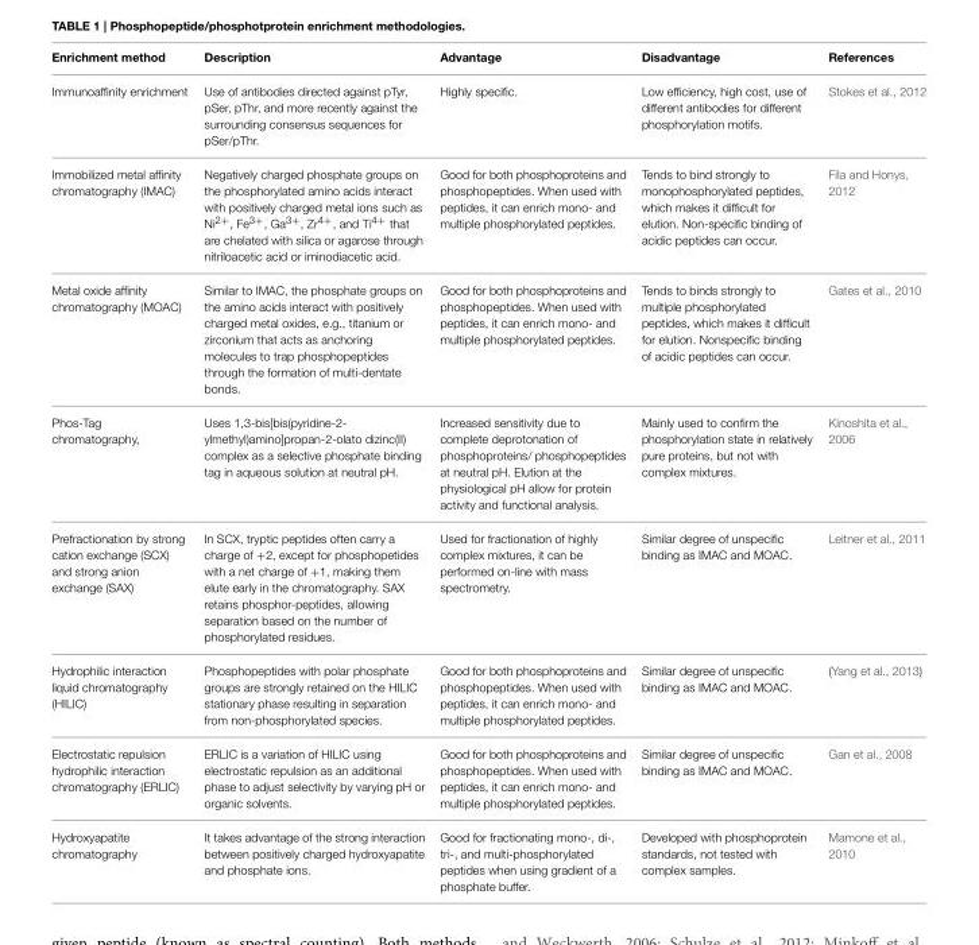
<table><thead><tr><td>Enrichment method</td><td>Description</td><td>Advantage</td><td>Disadvantage</td><td>References</td></tr></thead><tbody><tr><td>Immunoaffinity enrichment</td><td>Use of antibodies directed against pTyr, pSer, pThr, and more recently against the surrounding consensus sequences for pSer/pThr.</td><td>Highly specific.</td><td>Low efficiency, high cost, use of different antibodies for different phosphorylation motifs.</td><td>Stokes et al., 2012</td></tr><tr><td>Immobilized metal affinity chromatography (IMAC)</td><td>Negatively charged phosphate groups on the phosphorylated amino acids interact with positively charged metal ions such as Ni<sup>2+</sup>, Fe<sup>3+</sup>, Ga<sup>3+</sup>, Zr<sup>4+</sup>, and Ti<sup>4+</sup> that are chelated with silica or agarose through nitriloacetic acid or iminodiacetic acid.</td><td>Good for both phosphoproteins and phosphopeptides. When used with peptides, it can enrich mono- and multiple phosphorylated peptides.</td><td>Tends to bind strongly to monophosphorylated peptides, which makes it difficult for elution. Non-specific binding of acidic peptides can occur.</td><td>Fíla and Honys, 2012</td></tr><tr><td>Metal oxide affinity chromatography (MOAC)</td><td>Similar to IMAC, the phosphate groups on the amino acids interact with positively charged metal oxides, e.g., titanium or zirconium that acts as anchoring molecules to trap phosphopeptides through the formation of multi-dentate bonds.</td><td>Good for both phosphoproteins and phosphopeptides. When used with peptides, it can enrich mono- and multiple phosphorylated peptides.</td><td>Tends to binds strongly to multiple phosphorylated peptides, which makes it difficult for elution. Nonspecific binding of acidic peptides can occur.</td><td>Gates et al., 2010</td></tr><tr><td>Phos-Tag chromatography,</td><td>Uses 1,3-bis[bis(pyridine-2- ylmethyl)amino]propan-2-olato dizinc(II) complex as a selective phosphate binding tag in aqueous solution at neutral pH.</td><td>Increased sensitivity due to complete deprotonation of phosphoproteins/ phosphopeptides at neutral pH. Elution at the physiological pH allow for protein activity and functional analysis.</td><td>Mainly used to confirm the phosphorylation state in relatively pure proteins, but not with complex mixtures.</td><td>Kinoshita et al., 2006</td></tr><tr><td>Prefractionation by strong cation exchange (SCX) and strong anion exchange (SAX)</td><td>In SCX, tryptic peptides often carry a charge of +2, except for phosphopetides with a net charge of +1, making them elute early in the chromatography. SAX retains phosphor-peptides, allowing separation based on the number of phosphorylated residues.</td><td>Used for fractionation of highly complex mixtures, it can be performed on-line with mass spectrometry.</td><td>Similar degree of unspecific binding as IMAC and MOAC.</td><td>Leitner et al., 2011</td></tr><tr><td>Hydrophilic interaction liquid chromatography (HILIC)</td><td>Phosphopeptides with polar phosphate groups are strongly retained on the HILIC stationary phase resulting in separation from non-phosphorylated species.</td><td>Good for both phosphoproteins and phosphopeptides. When used with peptides, it can enrich mono- and multiple phosphorylated peptides.</td><td>Similar degree of unspecific binding as IMAC and MOAC.</td><td>(Yang et al., 2013)</td></tr><tr><td>Electrostatic repulsion hydrophilic interaction chromatography (ERLIC)</td><td>ERLIC is a variation of HILIC using electrostatic repulsion as an additional phase to adjust selectivity by varying pH or organic solvents.</td><td>Good for both phosphoproteins and phosphopeptides. When used with peptides, it can enrich mono- and multiple phosphorylated peptides.</td><td>Similar degree of unspecific binding as IMAC and MOAC.</td><td>Gan et al., 2008</td></tr><tr><td>Hydroxyapatite chromatography</td><td>It takes advantage of the strong interaction between positively charged hydroxyapatite and phosphate ions.</td><td>Good for fractionating mono-, di-, tri-, and multi-phosphorylated peptides when using gradient of a phosphate buffer.</td><td>Developed with phosphoprotein standards, not tested with complex samples.</td><td>Mamone et al., 2010</td></tr></tbody></table>